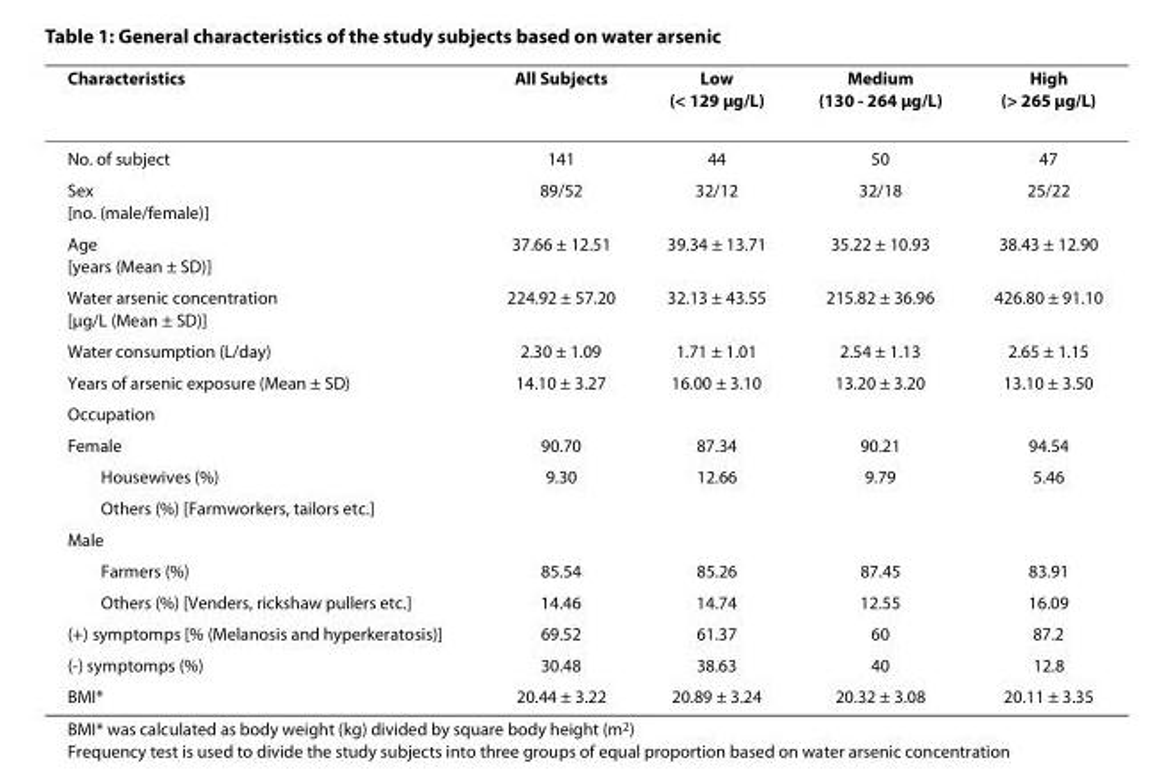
<table><thead><tr><td>Characteristics</td><td>All Subjects</td><td>Low (&lt; 129 μg/L)</td><td>Medium (130 - 264 μg/L)</td><td>High (&gt; 265 μg/L)</td></tr></thead><tbody><tr><td>No. of subject</td><td>141</td><td>44</td><td>50</td><td>47</td></tr><tr><td>Sex [no. (male/female)]</td><td>89/52</td><td>32/12</td><td>32/18</td><td>25/22</td></tr><tr><td>Age [years (Mean ± SD)]</td><td>37.66 ± 12.51</td><td>39.34 ± 13.71</td><td>35.22 ± 10.93</td><td>38.43 ± 12.90</td></tr><tr><td>Water arsenic concentration [μg/L (Mean ± SD)]</td><td>224.92 ± 57.20</td><td>32.13 ± 43.55</td><td>215.82 ± 36.96</td><td>426.80 ± 91.10</td></tr><tr><td>Water consumption (L/day)</td><td>2.30 ± 1.09</td><td>1.71 ± 1.01</td><td>2.54 ± 1.13</td><td>2.65 ± 1.15</td></tr><tr><td>Years of arsenic exposure (Mean ± SD)</td><td>14.10 ± 3.27</td><td>16.00 ± 3.10</td><td>13.20 ± 3.20</td><td>13.10 ± 3.50</td></tr><tr><td colspan="5">Occupation</td></tr><tr><td>Female</td><td>90.70</td><td>87.34</td><td>90.21</td><td>94.54</td></tr><tr><td>Housewives (%)</td><td>9.30</td><td>12.66</td><td>9.79</td><td>5.46</td></tr><tr><td colspan="5">Others (%) [Farmworkers, tailors etc.]</td></tr><tr><td colspan="5">Male</td></tr><tr><td>Farmers (%)</td><td>85.54</td><td>85.26</td><td>87.45</td><td>83.91</td></tr><tr><td>Others (%) [Venders, rickshaw pullers etc.]</td><td>14.46</td><td>14.74</td><td>12.55</td><td>16.09</td></tr><tr><td>(+) symptomps [% (Melanosis and hyperkeratosis)]</td><td>69.52</td><td>61.37</td><td>60</td><td>87.2</td></tr><tr><td>(-) symptomps (%)</td><td>30.48</td><td>38.63</td><td>40</td><td>12.8</td></tr><tr><td>BMI*</td><td>20.44 ± 3.22</td><td>20.89 ± 3.24</td><td>20.32 ± 3.08</td><td>20.11 ± 3.35</td></tr></tbody></table>